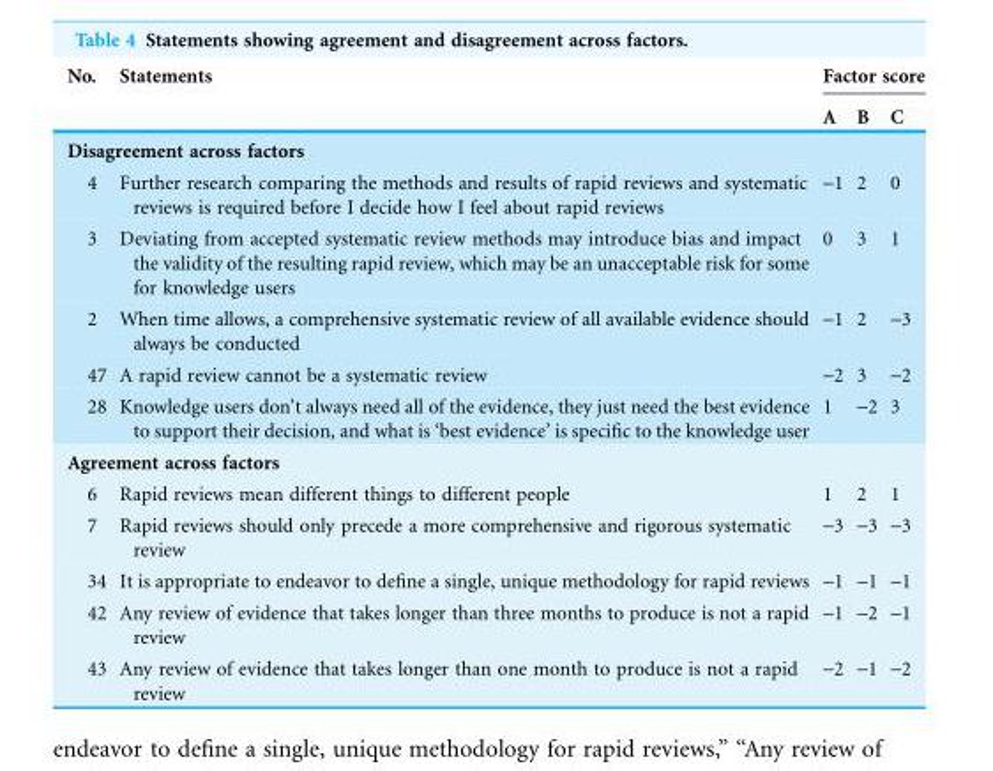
<table><thead><tr><td rowspan="2">No.</td><td rowspan="2">Statements</td><td colspan="3">Factor score</td></tr><tr><td>A</td><td>B</td><td>C</td></tr></thead><tbody><tr><td colspan="5">Disagreement across factors</td></tr><tr><td>4</td><td>Further research comparing the methods and results of rapid reviews and systematic reviews is required before I decide how I feel about rapid reviews</td><td>-1</td><td>2</td><td>0</td></tr><tr><td>3</td><td>Deviating from accepted systematic review methods may introduce bias and impact the validity of the resulting rapid review, which may be an unacceptable risk for some for knowledge users</td><td>0</td><td>3</td><td>1</td></tr><tr><td>2</td><td>When time allows, a comprehensive systematic review of all available evidence should always be conducted</td><td>-1</td><td>2</td><td>-3</td></tr><tr><td>47</td><td>A rapid review cannot be a systematic review</td><td>-2</td><td>3</td><td>-2</td></tr><tr><td>28</td><td>Knowledge users don’t always need all of the evidence, they just need the best evidence to support their decision, and what is ‘best evidence’ is specific to the knowledge user</td><td>1</td><td>-2</td><td>3</td></tr><tr><td colspan="5">Agreement across factors</td></tr><tr><td>6</td><td>Rapid reviews mean different things to different people</td><td>1</td><td>2</td><td>1</td></tr><tr><td>7</td><td>Rapid reviews should only precede a more comprehensive and rigorous systematic review</td><td>-3</td><td>-3</td><td>-3</td></tr><tr><td>34</td><td>It is appropriate to endeavor to define a single, unique methodology for rapid reviews</td><td>-1</td><td>-1</td><td>-1</td></tr><tr><td>42</td><td>Any review of evidence that takes longer than three months to produce is not a rapid review</td><td>-1</td><td>-2</td><td>-1</td></tr><tr><td>43</td><td>Any review of evidence that takes longer than one month to produce is not a rapid review</td><td>-2</td><td>-1</td><td>-2</td></tr></tbody></table>